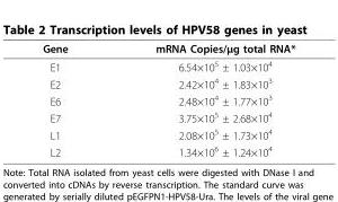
<table><thead><tr><td>Gene</td><td>mRNA Copies/μg total RNA*</td></tr></thead><tbody><tr><td>E1</td><td>6.54×10<sup>5</sup> ± 1.03×10<sup>4</sup></td></tr><tr><td>E2</td><td>2.42×10<sup>4</sup> ± 1.83×10<sup>3</sup></td></tr><tr><td>E6</td><td>2.48×10<sup>4</sup> ± 1.77×10<sup>3</sup></td></tr><tr><td>E7</td><td>3.75×10<sup>5</sup> ± 2.68×10<sup>4</sup></td></tr><tr><td>L1</td><td>2.08×10<sup>5</sup> ± 1.73×10<sup>4</sup></td></tr><tr><td>L2</td><td>1.34×10<sup>6</sup> ± 1.24×10<sup>4</sup></td></tr></tbody></table>